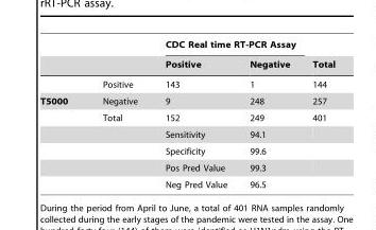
<table><thead><tr><td rowspan="2"></td><td rowspan="2"></td><td colspan="2">CDC Real time RT-PCR Assay</td><td rowspan="2">Total</td></tr><tr><td>Positive</td><td>Negative</td></tr></thead><tbody><tr><td></td><td>Positive</td><td>143</td><td>1</td><td>144</td></tr><tr><td rowspan="6">T5000</td><td>Negative</td><td>9</td><td>248</td><td>257</td></tr><tr><td>Total</td><td>152</td><td>249</td><td>401</td></tr><tr><td></td><td>Sensitivity</td><td>94.1</td><td></td></tr><tr><td></td><td>Specificity</td><td>99.6</td><td></td></tr><tr><td></td><td>Pos Pred Value</td><td>99.3</td><td></td></tr><tr><td></td><td>Neg Pred Value</td><td>96.5</td><td></td></tr></tbody></table>